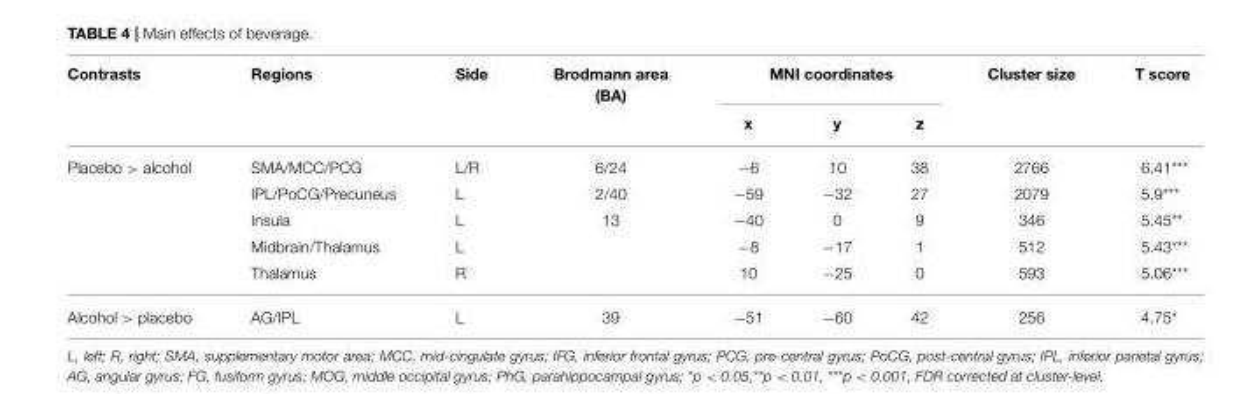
<table><thead><tr><td rowspan="2">Contrasts</td><td rowspan="2">Regions</td><td rowspan="2">Side</td><td rowspan="2">Brodmann area (BA)</td><td colspan="3">MNI coordinates</td><td rowspan="2">Cluster size</td><td rowspan="2">T score</td></tr><tr><td>x</td><td>y</td><td>z</td></tr></thead><tbody><tr><td rowspan="5">Placebo &gt; alcohol</td><td>SMA/MCC/PCG</td><td>L/R</td><td>6/24</td><td>−6</td><td>10</td><td>38</td><td>2766</td><td>6.41***</td></tr><tr><td>IPL/PoCG/Precuneus</td><td>L</td><td>2/40</td><td>−59</td><td>−32</td><td>27</td><td>2079</td><td>5.9***</td></tr><tr><td>Insula</td><td>L</td><td>13</td><td>−40</td><td>0</td><td>9</td><td>346</td><td>5.45**</td></tr><tr><td>Midbrain/Thalamus</td><td>L</td><td></td><td>−8</td><td>−17</td><td>1</td><td>512</td><td>5.43***</td></tr><tr><td>Thalamus</td><td>R</td><td></td><td>10</td><td>−25</td><td>0</td><td>593</td><td>5.06***</td></tr><tr><td>Alcohol &gt; placebo</td><td>AG/IPL</td><td>L</td><td>39</td><td>−51</td><td>−60</td><td>42</td><td>256</td><td>4.75*</td></tr></tbody></table>